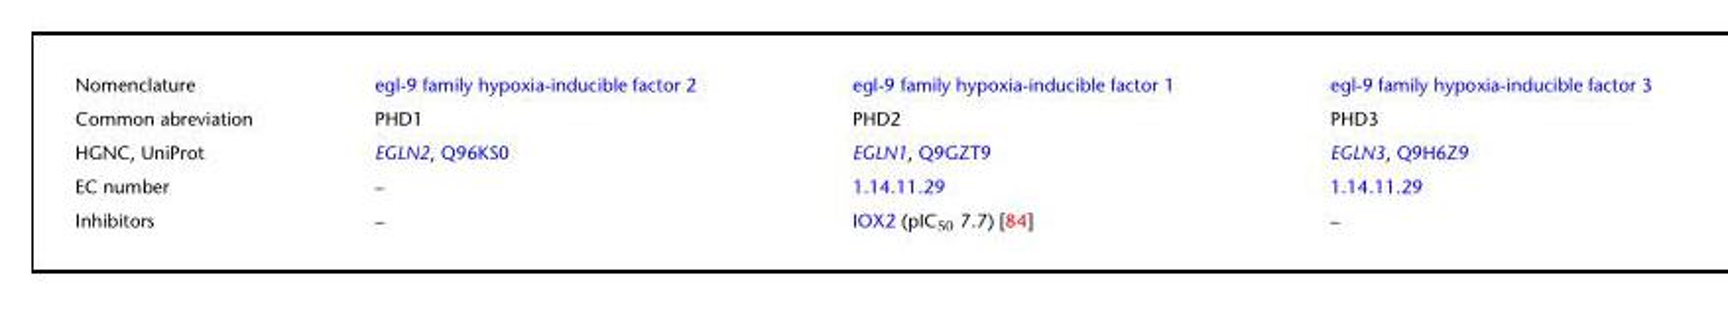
<table><tbody><tr><td>Nomenclature</td><td>egl-9 family hypoxia-inducible factor 2</td><td>egl-9 family hypoxia-inducible factor 1</td><td>egl-9 family hypoxia-inducible factor 3</td></tr><tr><td>Common abreviation</td><td>PHD1</td><td>PHD2</td><td>PHD3</td></tr><tr><td>HGNC, UniProt</td><td>EGLN2, Q96KS0</td><td>EGLN1, Q9GZT9</td><td>EGLN3, Q9H6Z9</td></tr><tr><td>EC number</td><td>–</td><td>1.14.11.29</td><td>1.14.11.29</td></tr><tr><td>Inhibitors</td><td>–</td><td>IOX2 (pIC<sub>50</sub> 7.7) [84]</td><td>–</td></tr></tbody></table>